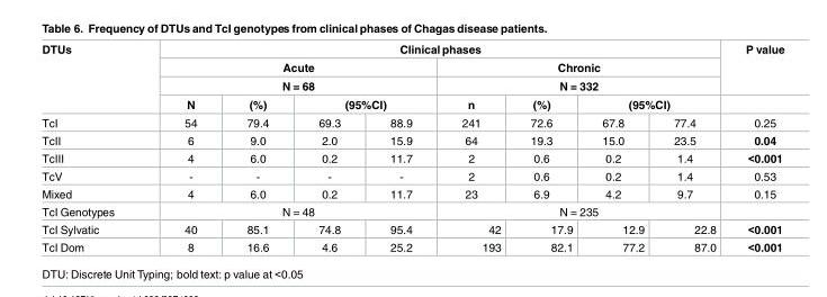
<table><thead><tr><td rowspan="5">DTUs TcI</td><td colspan="8">Clinical phases</td><td rowspan="5">P value 0.25</td></tr><tr><td rowspan="2" colspan="4">Acute N = 68</td><td rowspan="2" colspan="4">Chronic N = 332</td></tr><tr></tr><tr><td rowspan="2">N 54</td><td rowspan="2">(%) 79.4</td><td colspan="2">(95%CI)</td><td rowspan="2">n 241</td><td rowspan="2">(%) 72.6</td><td colspan="2">(95%CI)</td></tr><tr><td>69.3</td><td>88.9</td><td>67.8</td><td>77.4</td></tr></thead><tbody><tr><td>TcII</td><td>6</td><td>9.0</td><td>2.0</td><td>15.9</td><td>64</td><td>19.3</td><td>15.0</td><td>23.5</td><td>0.04</td></tr><tr><td>TcIII</td><td>4</td><td>6.0</td><td>0.2</td><td>11.7</td><td>2</td><td>0.6</td><td>0.2</td><td>1.4</td><td>&lt;0.001</td></tr><tr><td>TcV</td><td>-</td><td>-</td><td>-</td><td>-</td><td>2</td><td>0.6</td><td>0.2</td><td>1.4</td><td>0.53</td></tr><tr><td>Mixed</td><td>4</td><td>6.0</td><td>0.2</td><td>11.7</td><td>23</td><td>6.9</td><td>4.2</td><td>9.7</td><td>0.15</td></tr><tr><td>TcI Genotypes</td><td colspan="4">N = 48</td><td colspan="4">N = 235</td><td></td></tr><tr><td>TcI Sylvatic</td><td>40</td><td>85.1</td><td>74.8</td><td>95.4</td><td>42</td><td>17.9</td><td>12.9</td><td>22.8</td><td>&lt;0.001</td></tr><tr><td>TcI Dom</td><td>8</td><td>16.6</td><td>4.6</td><td>25.2</td><td>193</td><td>82.1</td><td>77.2</td><td>87.0</td><td>&lt;0.001</td></tr></tbody></table>